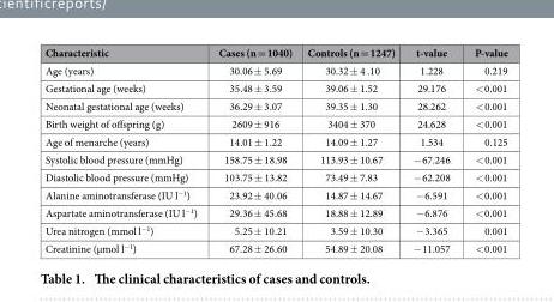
<table><thead><tr><td>Characteristic</td><td>Cases (n = 1040)</td><td>Controls (n = 1247)</td><td>t-value</td><td>P-value</td></tr></thead><tbody><tr><td>Age (years)</td><td>30.06 ± 5.69</td><td>30.32 ± 4 .10</td><td>1.228</td><td>0.219</td></tr><tr><td>Gestational age (weeks)</td><td>35.48 ± 3.59</td><td>39.06 ± 1.52</td><td>29.176</td><td>&lt; 0.001</td></tr><tr><td>Neonatal gestational age (weeks)</td><td>36.29 ± 3.07</td><td>39.35 ± 1.30</td><td>28.262</td><td>&lt; 0.001</td></tr><tr><td>Birth weight of offspring (g)</td><td>2609 ± 916</td><td>3404 ± 370</td><td>24.628</td><td>&lt; 0.001</td></tr><tr><td>Age of menarche (years)</td><td>14.01 ± 1.22</td><td>14.09 ± 1.27</td><td>1.534</td><td>0.125</td></tr><tr><td>Systolic blood pressure (mmHg)</td><td>158.75 ± 18.98</td><td>113.93 ± 10.67</td><td>− 67.246</td><td>&lt; 0.001</td></tr><tr><td>Diastolic blood pressure (mmHg)</td><td>103.75 ± 13.82</td><td>73.49 ± 7.83</td><td>− 62.208</td><td>&lt; 0.001</td></tr><tr><td>Alanine aminotransferase (IU l<sup>−1</sup>)</td><td>23.92 ± 40.06</td><td>14.87 ± 14.67</td><td>− 6.591</td><td>&lt; 0.001</td></tr><tr><td>Aspartate aminotransferase (IU l<sup>−1</sup>)</td><td>29.36 ± 45.68</td><td>18.88 ± 12.89</td><td>− 6.876</td><td>&lt; 0.001</td></tr><tr><td>Urea nitrogen (mmol l<sup>−1</sup>)</td><td>5.25 ± 10.21</td><td>3.59 ± 10.30</td><td>− 3.365</td><td>0.001</td></tr><tr><td>Creatinine (μmol l<sup>−1</sup>)</td><td>67.28 ± 26.60</td><td>54.89 ± 20.08</td><td>− 11.057</td><td>&lt; 0.001</td></tr></tbody></table>